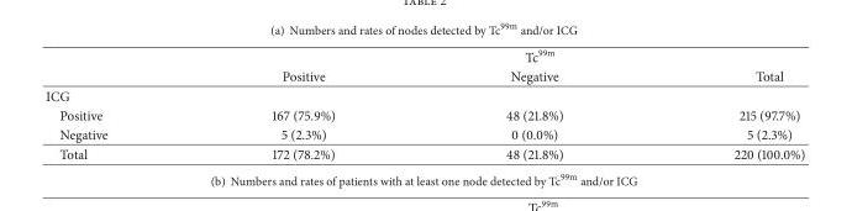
<table><thead><tr><td rowspan="2"></td><td colspan="3">Tc<sup>99m</sup></td></tr><tr><td>Positive</td><td>Negative</td><td>Total</td></tr></thead><tbody><tr><td colspan="4">ICG</td></tr><tr><td>Positive</td><td>167 (75.9%)</td><td>48 (21.8%)</td><td>215 (97.7%)</td></tr><tr><td>Negative</td><td>5 (2.3%)</td><td>0 (0.0%)</td><td>5 (2.3%)</td></tr><tr><td>Total</td><td>172 (78.2%)</td><td>48 (21.8%)</td><td>220 (100.0%)</td></tr></tbody></table>